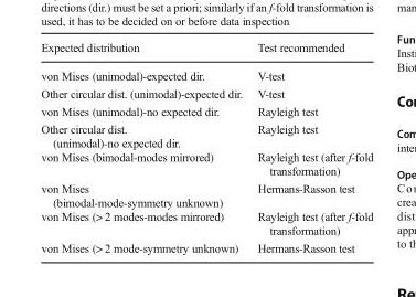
<table><thead><tr><td>Expected distribution</td><td>Test recommended</td></tr></thead><tbody><tr><td>von Mises (unimodal)-expected dir.</td><td>V-test</td></tr><tr><td>Other circular dist. (unimodal)-expected dir.</td><td>V-test</td></tr><tr><td>von Mises (unimodal)-no expected dir.</td><td>Rayleigh test</td></tr><tr><td>Other circular dist. (unimodal)-no expected dir.</td><td>Rayleigh test</td></tr><tr><td>von Mises (bimodal-modes mirrored)</td><td>Rayleigh test (after f-fold transformation)</td></tr><tr><td>von Mises (bimodal-mode-symmetry unknown)</td><td>Hermans-Rasson test</td></tr><tr><td>von Mises (&gt; 2 modes-modes mirrored)</td><td>Rayleigh test (after f-fold transformation)</td></tr><tr><td>von Mises (&gt; 2 mode-symmetry unknown)</td><td>Hermans-Rasson test</td></tr></tbody></table>